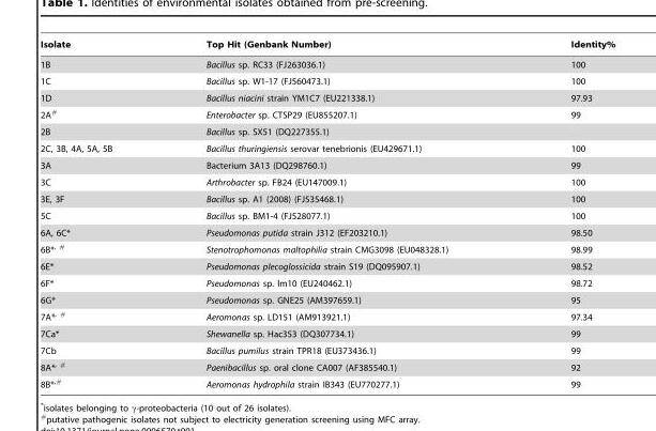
<table><thead><tr><td>Isolate</td><td>Top Hit (Genbank Number)</td><td>Identity%</td></tr></thead><tbody><tr><td>1B</td><td>Bacillus sp. RC33 (FJ263036.1)</td><td>100</td></tr><tr><td>1C</td><td>Bacillus sp. W1-17 (FJ560473.1)</td><td>100</td></tr><tr><td>1D</td><td>Bacillus niacini strain YM1C7 (EU221338.1)</td><td>97.93</td></tr><tr><td>2A#</td><td>Enterobacter sp. CTSP29 (EU855207.1)</td><td>99</td></tr><tr><td>2B</td><td>Bacillus sp. SX51 (DQ227355.1)</td><td></td></tr><tr><td>2C, 3B, 4A, 5A, 5B</td><td>Bacillus thuringiensis serovar tenebrionis (EU429671.1)</td><td>100</td></tr><tr><td>3A</td><td>Bacterium 3A13 (DQ298760.1)</td><td>99</td></tr><tr><td>3C</td><td>Arthrobacter sp. FB24 (EU147009.1)</td><td>100</td></tr><tr><td>3E, 3F</td><td>Bacillus sp. A1 (2008) (FJ535468.1)</td><td>100</td></tr><tr><td>5C</td><td>Bacillus sp. BM1-4 (FJ528077.1)</td><td>100</td></tr><tr><td>6A, 6C*</td><td>Pseudomonas putida strain J312 (EF203210.1)</td><td>98.50</td></tr><tr><td>6B*<sup>,</sup> #</td><td>Stenotrophomonas maltophilia strain CMG3098 (EU048328.1)</td><td>98.99</td></tr><tr><td>6E*</td><td>Pseudomonas plecoglossicida strain S19 (DQ095907.1)</td><td>98.52</td></tr><tr><td>6F*</td><td>Pseudomonas sp. lm10 (EU240462.1)</td><td>98.72</td></tr><tr><td>6G*</td><td>Pseudomonas sp. GNE25 (AM397659.1)</td><td>95</td></tr><tr><td>7A*<sup>,</sup> #</td><td>Aeromonas sp. LD151 (AM913921.1)</td><td>97.34</td></tr><tr><td>7Ca*</td><td>Shewanella sp. Hac353 (DQ307734.1)</td><td>99</td></tr><tr><td>7Cb</td><td>Bacillus pumilus strain TPR18 (EU373436.1)</td><td>99</td></tr><tr><td>8A*<sup>,</sup> #</td><td>Paenibacillus sp. oral clone CA007 (AF385540.1)</td><td>92</td></tr><tr><td>8B*<sup>,</sup>#</td><td>Aeromonas hydrophila strain IB343 (EU770277.1)</td><td>99</td></tr></tbody></table>